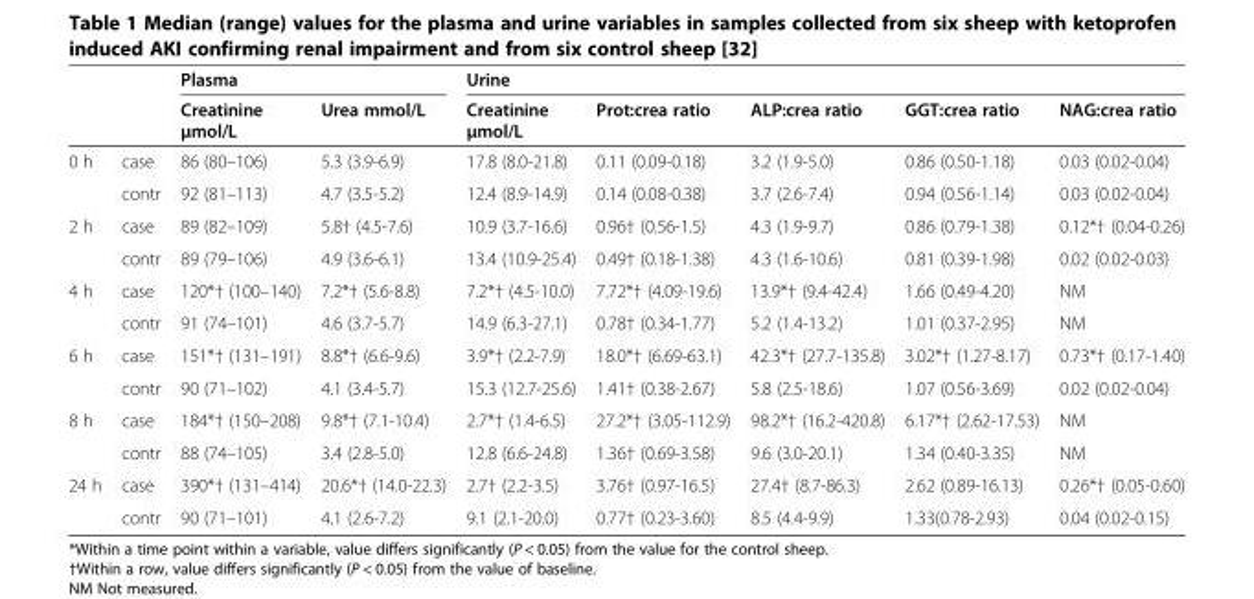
<table><thead><tr><td rowspan="2"></td><td rowspan="2"></td><td colspan="2">Plasma</td><td colspan="5">Urine</td></tr><tr><td>Creatinine μmol/L</td><td>Urea mmol/L</td><td>Creatinine μmol/L</td><td>Prot:crea ratio</td><td>ALP:crea ratio</td><td>GGT:crea ratio</td><td>NAG:crea ratio</td></tr></thead><tbody><tr><td rowspan="2">0 h</td><td>case</td><td>86 (80–106)</td><td>5.3 (3.9-6.9)</td><td>17.8 (8.0-21.8)</td><td>0.11 (0.09-0.18)</td><td>3.2 (1.9-5.0)</td><td>0.86 (0.50-1.18)</td><td>0.03 (0.02-0.04)</td></tr><tr><td>contr</td><td>92 (81–113)</td><td>4.7 (3.5-5.2)</td><td>12.4 (8.9-14.9)</td><td>0.14 (0.08-0.38)</td><td>3.7 (2.6-7.4)</td><td>0.94 (0.56-1.14)</td><td>0.03 (0.02-0.04)</td></tr><tr><td rowspan="2">2 h</td><td>case</td><td>89 (82–109)</td><td>5.8† (4.5-7.6)</td><td>10.9 (3.7-16.6)</td><td>0.96† (0.56-1.5)</td><td>4.3 (1.9-9.7)</td><td>0.86 (0.79-1.38)</td><td>0.12*† (0.04-0.26)</td></tr><tr><td>contr</td><td>89 (79–106)</td><td>4.9 (3.6-6.1)</td><td>13.4 (10.9-25.4)</td><td>0.49† (0.18-1.38)</td><td>4.3 (1.6-10.6)</td><td>0.81 (0.39-1.98)</td><td>0.02 (0.02-0.03)</td></tr><tr><td rowspan="2">4 h</td><td>case</td><td>120*† (100–140)</td><td>7.2*† (5.6-8.8)</td><td>7.2*† (4.5-10.0)</td><td>7.72*† (4.09-19.6)</td><td>13.9*† (9.4-42.4)</td><td>1.66 (0.49-4.20)</td><td>NM</td></tr><tr><td>contr</td><td>91 (74–101)</td><td>4.6 (3.7-5.7)</td><td>14.9 (6.3-27.1)</td><td>0.78† (0.34-1.77)</td><td>5.2 (1.4-13.2)</td><td>1.01 (0.37-2.95)</td><td>NM</td></tr><tr><td rowspan="2">6 h</td><td>case</td><td>151*† (131–191)</td><td>8.8*† (6.6-9.6)</td><td>3.9*† (2.2-7.9)</td><td>18.0*† (6.69-63.1)</td><td>42.3*† (27.7-135.8)</td><td>3.02*† (1.27-8.17)</td><td>0.73*† (0.17-1.40)</td></tr><tr><td>contr</td><td>90 (71–102)</td><td>4.1 (3.4-5.7)</td><td>15.3 (12.7-25.6)</td><td>1.41† (0.38-2.67)</td><td>5.8 (2.5-18.6)</td><td>1.07 (0.56-3.69)</td><td>0.02 (0.02-0.04)</td></tr><tr><td rowspan="2">8 h</td><td>case</td><td>184*† (150–208)</td><td>9.8*† (7.1-10.4)</td><td>2.7*† (1.4-6.5)</td><td>27.2*† (3.05-112.9)</td><td>98.2*† (16.2-420.8)</td><td>6.17*† (2.62-17.53)</td><td>NM</td></tr><tr><td>contr</td><td>88 (74–105)</td><td>3.4 (2.8-5.0)</td><td>12.8 (6.6-24.8)</td><td>1.36† (0.69-3.58)</td><td>9.6 (3.0-20.1)</td><td>1.34 (0.40-3.35)</td><td>NM</td></tr><tr><td rowspan="2">24 h</td><td>case</td><td>390*† (131–414)</td><td>20.6*† (14.0-22.3)</td><td>2.7† (2.2-3.5)</td><td>3.76† (0.97-16.5)</td><td>27.4† (8.7-86.3)</td><td>2.62 (0.89-16.13)</td><td>0.26*† (0.05-0.60)</td></tr><tr><td>contr</td><td>90 (71–101)</td><td>4.1 (2.6-7.2)</td><td>9.1 (2.1-20.0)</td><td>0.77† (0.23-3.60)</td><td>8.5 (4.4-9.9)</td><td>1.33(0.78-2.93)</td><td>0.04 (0.02-0.15)</td></tr></tbody></table>